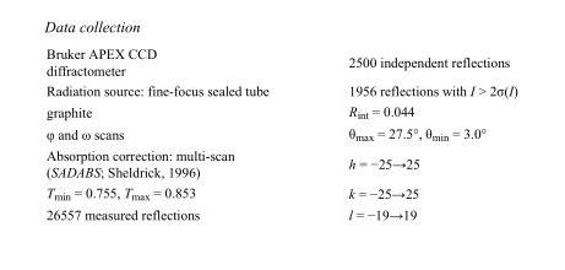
<table><tbody><tr><td>Bruker APEX CCD diffractometer</td><td>2500 independent reflections</td></tr><tr><td>Radiation source: fine-focus sealed tube</td><td>1956 reflections with I &gt; 2σ(I)</td></tr><tr><td>graphite</td><td>R<sub>int</sub> = 0.044</td></tr><tr><td>φ and ω scans</td><td>θ<sub>max</sub> = 27.5°, θ<sub>min</sub> = 3.0°</td></tr><tr><td>Absorption correction: multi-scan (SADABS; Sheldrick, 1996)</td><td>h = −25→25</td></tr><tr><td>T<sub>min</sub> = 0.755, T<sub>max</sub> = 0.853</td><td>k = −25→25</td></tr><tr><td>26557 measured reflections</td><td>l = −19→19</td></tr></tbody></table>